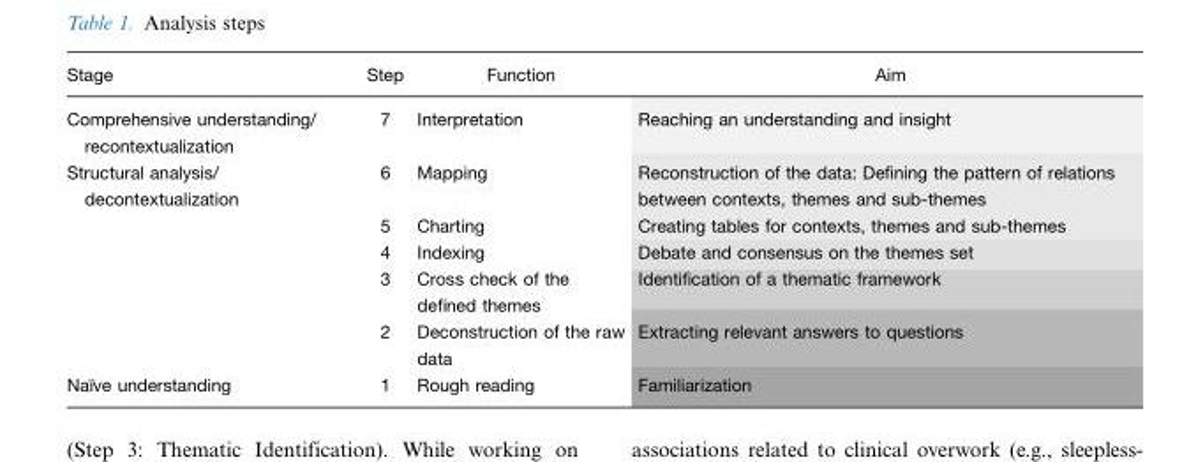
<table><thead><tr><td>Stage</td><td>Step</td><td>Function</td><td>Aim</td></tr></thead><tbody><tr><td>Comprehensive understanding/ recontextualization</td><td>7</td><td>Interpretation</td><td>Reaching an understanding and insight</td></tr><tr><td rowspan="5">Structural analysis/ decontextualization</td><td>6</td><td>Mapping</td><td>Reconstruction of the data: Defining the pattern of relations between contexts, themes and sub-themes</td></tr><tr><td>5</td><td>Charting</td><td>Creating tables for contexts, themes and sub-themes</td></tr><tr><td>4</td><td>Indexing</td><td>Debate and consensus on the themes set</td></tr><tr><td>3</td><td>Cross check of the defined themes</td><td>Identification of a thematic framework</td></tr><tr><td>2</td><td>Deconstruction of the raw data</td><td>Extracting relevant answers to questions</td></tr><tr><td>Naı¨ve understanding</td><td>1</td><td>Rough reading</td><td>Familiarization</td></tr></tbody></table>